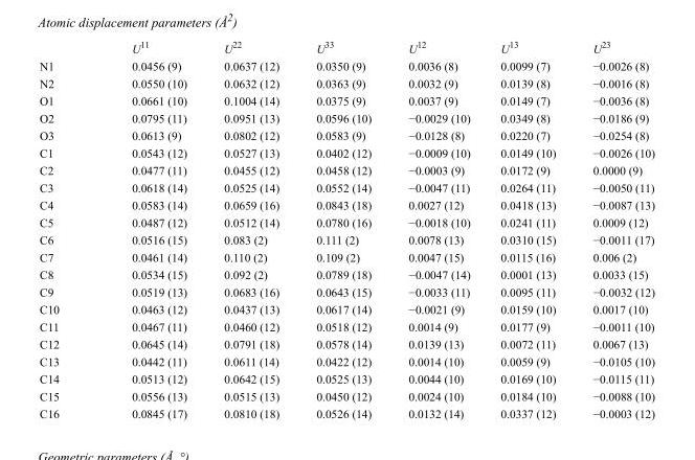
<table><thead><tr><td></td><td>U<sup>11</sup></td><td>U<sup>22</sup></td><td>U<sup>33</sup></td><td>U<sup>12</sup></td><td>U<sup>13</sup></td><td>U<sup>23</sup></td></tr></thead><tbody><tr><td>N1</td><td>0.0456 (9)</td><td>0.0637 (12)</td><td>0.0350 (9)</td><td>0.0036 (8)</td><td>0.0099 (7)</td><td>−0.0026 (8)</td></tr><tr><td>N2</td><td>0.0550 (10)</td><td>0.0632 (12)</td><td>0.0363 (9)</td><td>0.0032 (9)</td><td>0.0139 (8)</td><td>−0.0016 (8)</td></tr><tr><td>O1</td><td>0.0661 (10)</td><td>0.1004 (14)</td><td>0.0375 (9)</td><td>0.0037 (9)</td><td>0.0149 (7)</td><td>−0.0036 (8)</td></tr><tr><td>O2</td><td>0.0795 (11)</td><td>0.0951 (13)</td><td>0.0596 (10)</td><td>−0.0029 (10)</td><td>0.0349 (8)</td><td>−0.0186 (9)</td></tr><tr><td>O3</td><td>0.0613 (9)</td><td>0.0802 (12)</td><td>0.0583 (9)</td><td>−0.0128 (8)</td><td>0.0220 (7)</td><td>−0.0254 (8)</td></tr><tr><td>C1</td><td>0.0543 (12)</td><td>0.0527 (13)</td><td>0.0402 (12)</td><td>−0.0009 (10)</td><td>0.0149 (10)</td><td>−0.0026 (10)</td></tr><tr><td>C2</td><td>0.0477 (11)</td><td>0.0455 (12)</td><td>0.0458 (12)</td><td>−0.0003 (9)</td><td>0.0172 (9)</td><td>0.0000 (9)</td></tr><tr><td>C3</td><td>0.0618 (14)</td><td>0.0525 (14)</td><td>0.0552 (14)</td><td>−0.0047 (11)</td><td>0.0264 (11)</td><td>−0.0050 (11)</td></tr><tr><td>C4</td><td>0.0583 (14)</td><td>0.0659 (16)</td><td>0.0843 (18)</td><td>0.0027 (12)</td><td>0.0418 (13)</td><td>−0.0087 (13)</td></tr><tr><td>C5</td><td>0.0487 (12)</td><td>0.0512 (14)</td><td>0.0780 (16)</td><td>−0.0018 (10)</td><td>0.0241 (11)</td><td>0.0009 (12)</td></tr><tr><td>C6</td><td>0.0516 (15)</td><td>0.083 (2)</td><td>0.111 (2)</td><td>0.0078 (13)</td><td>0.0310 (15)</td><td>−0.0011 (17)</td></tr><tr><td>C7</td><td>0.0461 (14)</td><td>0.110 (2)</td><td>0.109 (2)</td><td>0.0047 (15)</td><td>0.0115 (16)</td><td>0.006 (2)</td></tr><tr><td>C8</td><td>0.0534 (15)</td><td>0.092 (2)</td><td>0.0789 (18)</td><td>−0.0047 (14)</td><td>0.0001 (13)</td><td>0.0033 (15)</td></tr><tr><td>C9</td><td>0.0519 (13)</td><td>0.0683 (16)</td><td>0.0643 (15)</td><td>−0.0033 (11)</td><td>0.0095 (11)</td><td>−0.0032 (12)</td></tr><tr><td>C10</td><td>0.0463 (12)</td><td>0.0437 (13)</td><td>0.0617 (14)</td><td>−0.0021 (9)</td><td>0.0159 (10)</td><td>0.0017 (10)</td></tr><tr><td>C11</td><td>0.0467 (11)</td><td>0.0460 (12)</td><td>0.0518 (12)</td><td>0.0014 (9)</td><td>0.0177 (9)</td><td>−0.0011 (10)</td></tr><tr><td>C12</td><td>0.0645 (14)</td><td>0.0791 (18)</td><td>0.0578 (14)</td><td>0.0139 (13)</td><td>0.0072 (11)</td><td>0.0067 (13)</td></tr><tr><td>C13</td><td>0.0442 (11)</td><td>0.0611 (14)</td><td>0.0422 (12)</td><td>0.0014 (10)</td><td>0.0059 (9)</td><td>−0.0105 (10)</td></tr><tr><td>C14</td><td>0.0513 (12)</td><td>0.0642 (15)</td><td>0.0525 (13)</td><td>0.0044 (10)</td><td>0.0169 (10)</td><td>−0.0115 (11)</td></tr><tr><td>C15</td><td>0.0556 (13)</td><td>0.0515 (13)</td><td>0.0450 (12)</td><td>0.0024 (10)</td><td>0.0184 (10)</td><td>−0.0088 (10)</td></tr><tr><td>C16</td><td>0.0845 (17)</td><td>0.0810 (18)</td><td>0.0526 (14)</td><td>0.0132 (14)</td><td>0.0337 (12)</td><td>−0.0003 (12)</td></tr></tbody></table>